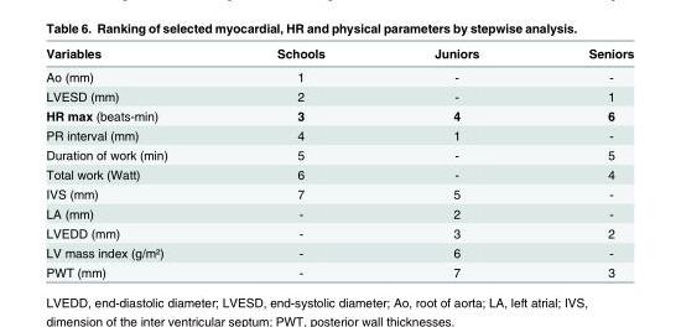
<table><thead><tr><td>Variables</td><td>Schools</td><td>Juniors</td><td>Seniors</td></tr></thead><tbody><tr><td>Ao (mm)</td><td>1</td><td>-</td><td>-</td></tr><tr><td>LVESD (mm)</td><td>2</td><td>-</td><td>1</td></tr><tr><td>HR max (beats-min)</td><td>3</td><td>4</td><td>6</td></tr><tr><td>PR interval (mm)</td><td>4</td><td>1</td><td>-</td></tr><tr><td>Duration of work (min)</td><td>5</td><td>-</td><td>5</td></tr><tr><td>Total work (Watt)</td><td>6</td><td>-</td><td>4</td></tr><tr><td>IVS (mm)</td><td>7</td><td>5</td><td>-</td></tr><tr><td>LA (mm)</td><td>-</td><td>2</td><td>-</td></tr><tr><td>LVEDD (mm)</td><td>-</td><td>3</td><td>2</td></tr><tr><td>LV mass index (g/m²)</td><td>-</td><td>6</td><td>-</td></tr><tr><td>PWT (mm)</td><td>-</td><td>7</td><td>3</td></tr></tbody></table>